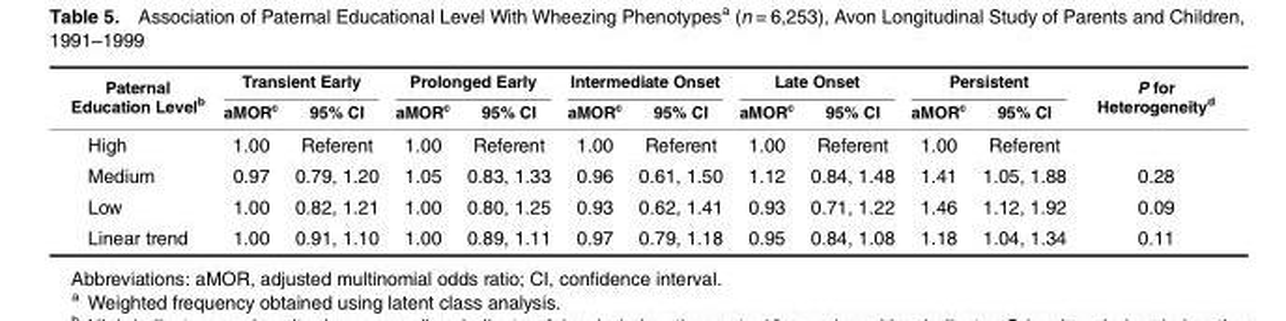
<table><thead><tr><td rowspan="2">Paternal Education Level<sup>b</sup></td><td colspan="2">Transient Early</td><td colspan="2">Prolonged Early</td><td colspan="2">Intermediate Onset</td><td colspan="2">Late Onset</td><td colspan="2">Persistent</td><td rowspan="2">P for Heterogeneity<sup>d</sup></td></tr><tr><td>aMOR<sup>c</sup></td><td>95% CI</td><td>aMOR<sup>c</sup></td><td>95% CI</td><td>aMOR<sup>c</sup></td><td>95% CI</td><td>aMOR<sup>c</sup></td><td>95% CI</td><td>aMOR<sup>c</sup></td><td>95% CI</td></tr></thead><tbody><tr><td>High</td><td>1.00</td><td>Referent</td><td>1.00</td><td>Referent</td><td>1.00</td><td>Referent</td><td>1.00</td><td>Referent</td><td>1.00</td><td>Referent</td><td></td></tr><tr><td>Medium</td><td>0.97</td><td>0.79, 1.20</td><td>1.05</td><td>0.83, 1.33</td><td>0.96</td><td>0.61, 1.50</td><td>1.12</td><td>0.84, 1.48</td><td>1.41</td><td>1.05, 1.88</td><td>0.28</td></tr><tr><td>Low</td><td>1.00</td><td>0.82, 1.21</td><td>1.00</td><td>0.80, 1.25</td><td>0.93</td><td>0.62, 1.41</td><td>0.93</td><td>0.71, 1.22</td><td>1.46</td><td>1.12, 1.92</td><td>0.09</td></tr><tr><td>Linear trend</td><td>1.00</td><td>0.91, 1.10</td><td>1.00</td><td>0.89, 1.11</td><td>0.97</td><td>0.79, 1.18</td><td>0.95</td><td>0.84, 1.08</td><td>1.18</td><td>1.04, 1.34</td><td>0.11</td></tr></tbody></table>